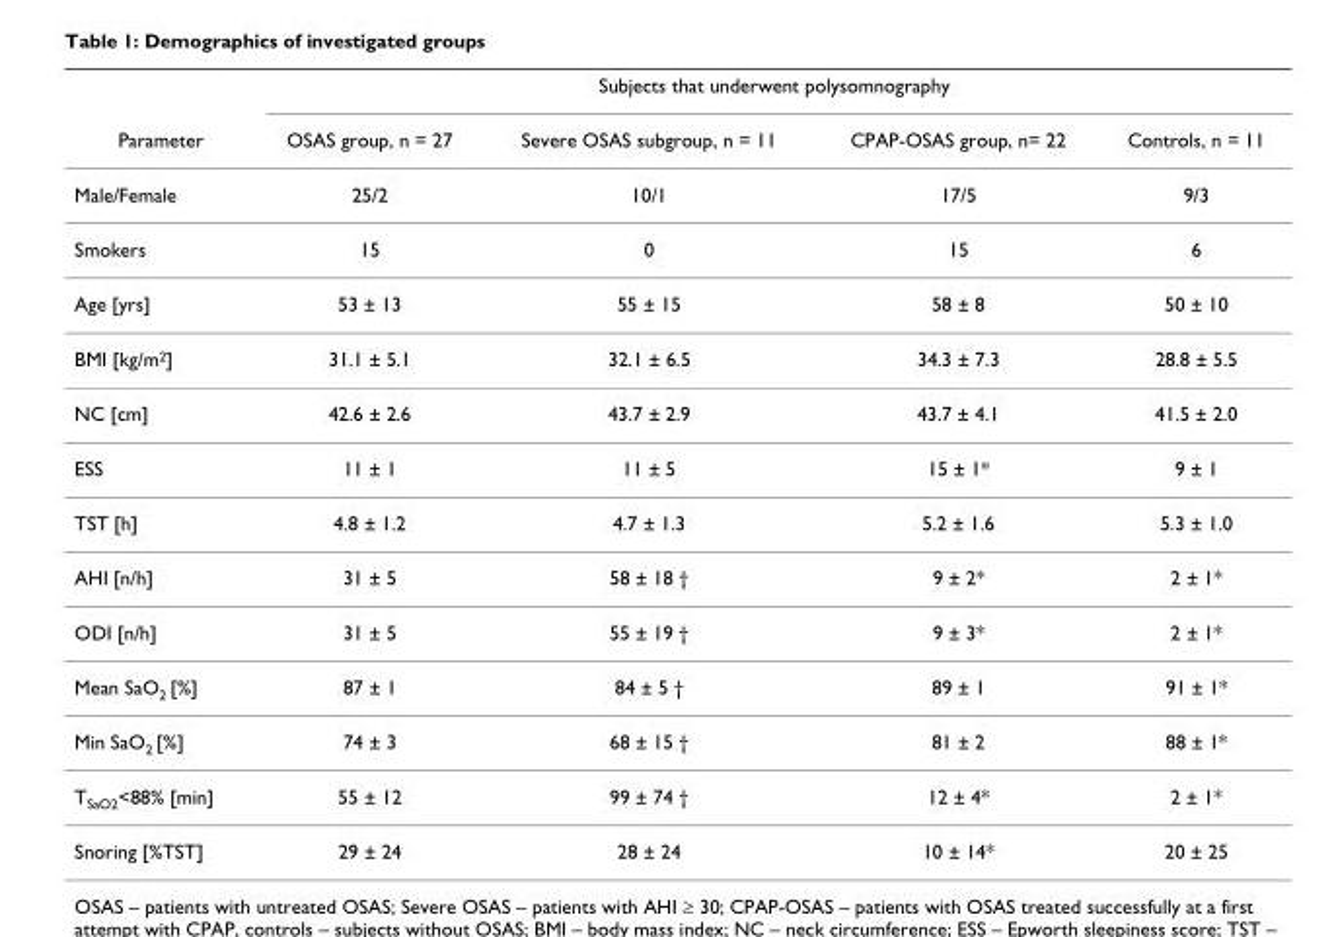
<table><thead><tr><td rowspan="2">Parameter</td><td colspan="4">Subjects that underwent polysomnography</td></tr><tr><td>OSAS group, n = 27</td><td>Severe OSAS subgroup, n = 11</td><td>CPAP-OSAS group, n= 22</td><td>Controls, n = 11</td></tr></thead><tbody><tr><td>Male/Female</td><td>25/2</td><td>10/1</td><td>17/5</td><td>9/3</td></tr><tr><td>Smokers</td><td>15</td><td>0</td><td>15</td><td>6</td></tr><tr><td>Age [yrs]</td><td>53 ± 13</td><td>55 ± 15</td><td>58 ± 8</td><td>50 ± 10</td></tr><tr><td>BMI [kg/m<sup>2</sup>]</td><td>31.1 ± 5.1</td><td>32.1 ± 6.5</td><td>34.3 ± 7.3</td><td>28.8 ± 5.5</td></tr><tr><td>NC [cm]</td><td>42.6 ± 2.6</td><td>43.7 ± 2.9</td><td>43.7 ± 4.1</td><td>41.5 ± 2.0</td></tr><tr><td>ESS</td><td>11 ± 1</td><td>11 ± 5</td><td>15 ± 1*</td><td>9 ± 1</td></tr><tr><td>TST [h]</td><td>4.8 ± 1.2</td><td>4.7 ± 1.3</td><td>5.2 ± 1.6</td><td>5.3 ± 1.0</td></tr><tr><td>AHI [n/h]</td><td>31 ± 5</td><td>58 ± 18 †</td><td>9 ± 2*</td><td>2 ± 1*</td></tr><tr><td>ODI [n/h]</td><td>31 ± 5</td><td>55 ± 19 †</td><td>9 ± 3*</td><td>2 ± 1*</td></tr><tr><td>Mean SaO<sub>2</sub> [%]</td><td>87 ± 1</td><td>84 ± 5 †</td><td>89 ± 1</td><td>91 ± 1*</td></tr><tr><td>Min SaO<sub>2</sub> [%]</td><td>74 ± 3</td><td>68 ± 15 †</td><td>81 ± 2</td><td>88 ± 1*</td></tr><tr><td>T<sub>SaO2</sub>&lt;88% [min]</td><td>55 ± 12</td><td>99 ± 74 †</td><td>12 ± 4*</td><td>2 ± 1*</td></tr><tr><td>Snoring [%TST]</td><td>29 ± 24</td><td>28 ± 24</td><td>10 ± 14*</td><td>20 ± 25</td></tr></tbody></table>